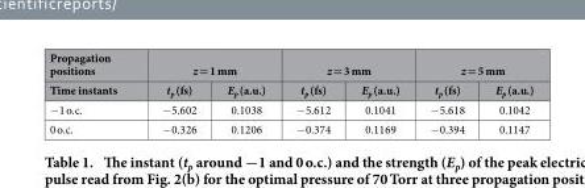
<table><thead><tr><td rowspan="2">Propagation positions Time instants</td><td colspan="2">z = 1 mm</td><td colspan="2">z = 3 mm</td><td colspan="2">z = 5 mm</td></tr><tr><td>t<sub>p</sub> (fs)</td><td>E<sub>p</sub> (a.u.)</td><td>t<sub>p</sub> (fs)</td><td>E<sub>p</sub> (a.u.)</td><td>t<sub>p</sub> (fs)</td><td>E<sub>p</sub> (a.u.)</td></tr></thead><tbody><tr><td>− 1 o.c.</td><td>− 5.602</td><td>0.1038</td><td>− 5.612</td><td>0.1041</td><td>− 5.618</td><td>0.1042</td></tr><tr><td>0 o.c.</td><td>− 0.326</td><td>0.1206</td><td>− 0.374</td><td>0.1169</td><td>− 0.394</td><td>0.1147</td></tr></tbody></table>